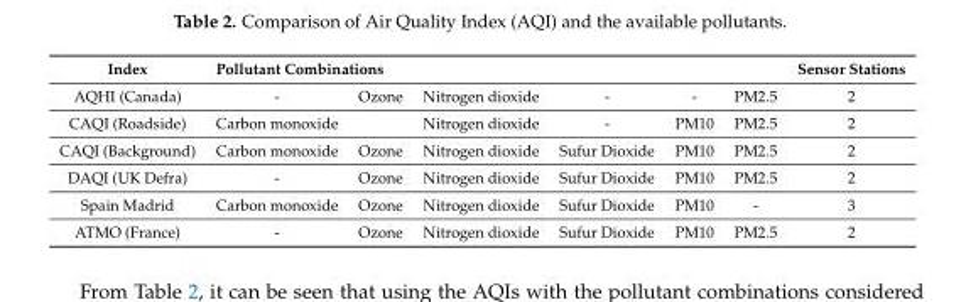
<table><thead><tr><td rowspan="2">Index AQHI (Canada)</td><td colspan="6">Pollutant Combinations</td><td rowspan="2">Sensor Stations 2</td></tr><tr><td>-</td><td>Ozone</td><td>Nitrogen dioxide</td><td>-</td><td>-</td><td>PM2.5</td></tr></thead><tbody><tr><td>CAQI (Roadside)</td><td>Carbon monoxide</td><td></td><td>Nitrogen dioxide</td><td>-</td><td>PM10</td><td>PM2.5</td><td>2</td></tr><tr><td>CAQI (Background)</td><td>Carbon monoxide</td><td>Ozone</td><td>Nitrogen dioxide</td><td>Sufur Dioxide</td><td>PM10</td><td>PM2.5</td><td>2</td></tr><tr><td>DAQI (UK Defra)</td><td>-</td><td>Ozone</td><td>Nitrogen dioxide</td><td>Sufur Dioxide</td><td>PM10</td><td>PM2.5</td><td>2</td></tr><tr><td>Spain Madrid</td><td>Carbon monoxide</td><td>Ozone</td><td>Nitrogen dioxide</td><td>Sufur Dioxide</td><td>PM10</td><td>-</td><td>3</td></tr><tr><td>ATMO (France)</td><td>-</td><td>Ozone</td><td>Nitrogen dioxide</td><td>Sufur Dioxide</td><td>PM10</td><td>PM2.5</td><td>2</td></tr></tbody></table>